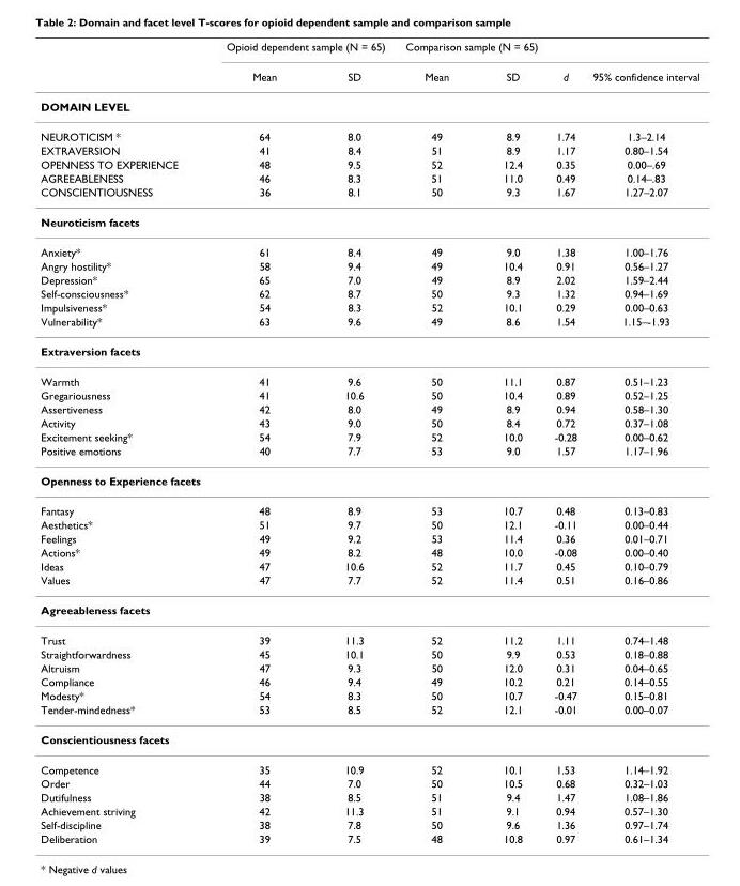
<table><thead><tr><td rowspan="2"></td><td colspan="2">Opioid dependent sample (N = 65)</td><td colspan="2">Comparison sample (N = 65)</td><td rowspan="2">d</td><td rowspan="2">95% confidence interval</td></tr><tr><td>Mean</td><td>SD</td><td>Mean</td><td>SD</td></tr></thead><tbody><tr><td colspan="7">DOMAIN LEVEL</td></tr><tr><td>NEUROTICISM *</td><td>64</td><td>8.0</td><td>49</td><td>8.9</td><td>1.74</td><td>1.3–2.14</td></tr><tr><td>EXTRAVERSION</td><td>41</td><td>8.4</td><td>51</td><td>8.9</td><td>1.17</td><td>0.80–1.54</td></tr><tr><td>OPENNESS TO EXPERIENCE</td><td>48</td><td>9.5</td><td>52</td><td>12.4</td><td>0.35</td><td>0.00–.69</td></tr><tr><td>AGREEABLENESS</td><td>46</td><td>8.3</td><td>51</td><td>11.0</td><td>0.49</td><td>0.14–.83</td></tr><tr><td>CONSCIENTIOUSNESS</td><td>36</td><td>8.1</td><td>50</td><td>9.3</td><td>1.67</td><td>1.27–2.07</td></tr><tr><td colspan="7">Neuroticism facets</td></tr><tr><td>Anxiety*</td><td>61</td><td>8.4</td><td>49</td><td>9.0</td><td>1.38</td><td>1.00–1.76</td></tr><tr><td>Angry hostility*</td><td>58</td><td>9.4</td><td>49</td><td>10.4</td><td>0.91</td><td>0.56–1.27</td></tr><tr><td>Depression*</td><td>65</td><td>7.0</td><td>49</td><td>8.9</td><td>2.02</td><td>1.59–2.44</td></tr><tr><td>Self-consciousness*</td><td>62</td><td>8.7</td><td>50</td><td>9.3</td><td>1.32</td><td>0.94–1.69</td></tr><tr><td>Impulsiveness*</td><td>54</td><td>8.3</td><td>52</td><td>10.1</td><td>0.29</td><td>0.00–0.63</td></tr><tr><td>Vulnerability*</td><td>63</td><td>9.6</td><td>49</td><td>8.6</td><td>1.54</td><td>1.15–-1.93</td></tr><tr><td colspan="7">Extraversion facets</td></tr><tr><td>Warmth</td><td>41</td><td>9.6</td><td>50</td><td>11.1</td><td>0.87</td><td>0.51–1.23</td></tr><tr><td>Gregariousness</td><td>41</td><td>10.6</td><td>50</td><td>10.4</td><td>0.89</td><td>0.52–1.25</td></tr><tr><td>Assertiveness</td><td>42</td><td>8.0</td><td>49</td><td>8.9</td><td>0.94</td><td>0.58–1.30</td></tr><tr><td>Activity</td><td>43</td><td>9.0</td><td>50</td><td>8.4</td><td>0.72</td><td>0.37–1.08</td></tr><tr><td>Excitement seeking*</td><td>54</td><td>7.9</td><td>52</td><td>10.0</td><td>-0.28</td><td>0.00–0.62</td></tr><tr><td>Positive emotions</td><td>40</td><td>7.7</td><td>53</td><td>9.0</td><td>1.57</td><td>1.17–1.96</td></tr><tr><td colspan="7">Openness to Experience facets</td></tr><tr><td>Fantasy</td><td>48</td><td>8.9</td><td>53</td><td>10.7</td><td>0.48</td><td>0.13–0.83</td></tr><tr><td>Aesthetics*</td><td>51</td><td>9.7</td><td>50</td><td>12.1</td><td>-0.11</td><td>0.00–0.44</td></tr><tr><td>Feelings</td><td>49</td><td>9.2</td><td>53</td><td>11.4</td><td>0.36</td><td>0.01–0.71</td></tr><tr><td>Actions*</td><td>49</td><td>8.2</td><td>48</td><td>10.0</td><td>-0.08</td><td>0.00–0.40</td></tr><tr><td>Ideas</td><td>47</td><td>10.6</td><td>52</td><td>11.7</td><td>0.45</td><td>0.10–0.79</td></tr><tr><td>Values</td><td>47</td><td>7.7</td><td>52</td><td>11.4</td><td>0.51</td><td>0.16–0.86</td></tr><tr><td colspan="7">Agreeableness facets</td></tr><tr><td>Trust</td><td>39</td><td>11.3</td><td>52</td><td>11.2</td><td>1.11</td><td>0.74–1.48</td></tr><tr><td>Straightforwardness</td><td>45</td><td>10.1</td><td>50</td><td>9.9</td><td>0.53</td><td>0.18–0.88</td></tr><tr><td>Altruism</td><td>47</td><td>9.3</td><td>50</td><td>12.0</td><td>0.31</td><td>0.04–0.65</td></tr><tr><td>Compliance</td><td>46</td><td>9.4</td><td>49</td><td>10.2</td><td>0.21</td><td>0.14–0.55</td></tr><tr><td>Modesty*</td><td>54</td><td>8.3</td><td>50</td><td>10.7</td><td>-0.47</td><td>0.15–0.81</td></tr><tr><td>Tender-mindedness*</td><td>53</td><td>8.5</td><td>52</td><td>12.1</td><td>-0.01</td><td>0.00–0.07</td></tr><tr><td colspan="7">Conscientiousness facets</td></tr><tr><td>Competence</td><td>35</td><td>10.9</td><td>52</td><td>10.1</td><td>1.53</td><td>1.14–1.92</td></tr><tr><td>Order</td><td>44</td><td>7.0</td><td>50</td><td>10.5</td><td>0.68</td><td>0.32–1.03</td></tr><tr><td>Dutifulness</td><td>38</td><td>8.5</td><td>51</td><td>9.4</td><td>1.47</td><td>1.08–1.86</td></tr><tr><td>Achievement striving</td><td>42</td><td>11.3</td><td>51</td><td>9.1</td><td>0.94</td><td>0.57–1.30</td></tr><tr><td>Self-discipline</td><td>38</td><td>7.8</td><td>50</td><td>9.6</td><td>1.36</td><td>0.97–1.74</td></tr><tr><td>Deliberation</td><td>39</td><td>7.5</td><td>48</td><td>10.8</td><td>0.97</td><td>0.61–1.34</td></tr></tbody></table>